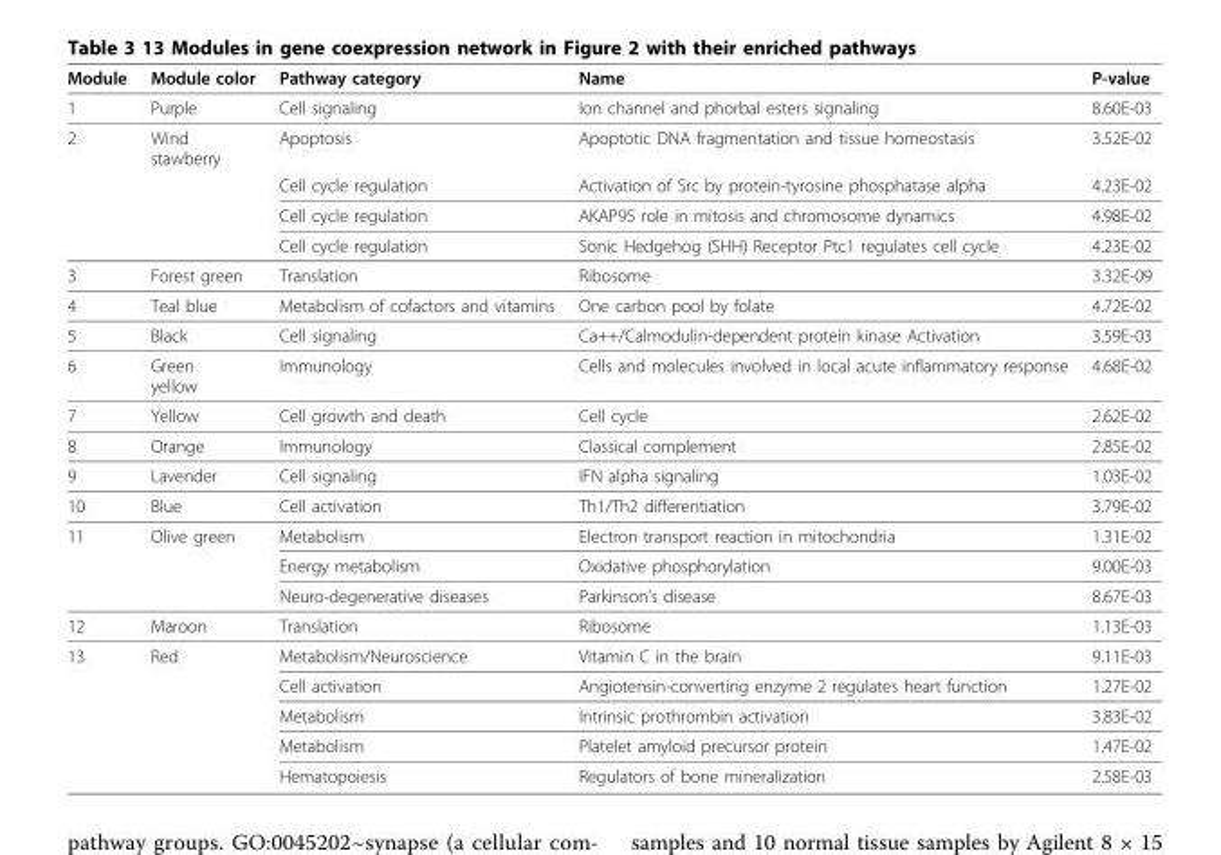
<table><thead><tr><td>Module</td><td>Module color</td><td>Pathway category</td><td>Name</td><td>P-value</td></tr></thead><tbody><tr><td>1</td><td>Purple</td><td>Cell signaling</td><td>Ion channel and phorbal esters signaling</td><td>8.60E-03</td></tr><tr><td rowspan="4">2</td><td>Wind stawberry</td><td>Apoptosis</td><td>Apoptotic DNA fragmentation and tissue homeostasis</td><td>3.52E-02</td></tr><tr><td></td><td>Cell cycle regulation</td><td>Activation of Src by protein-tyrosine phosphatase alpha</td><td>4.23E-02</td></tr><tr><td></td><td>Cell cycle regulation</td><td>AKAP95 role in mitosis and chromosome dynamics</td><td>4.98E-02</td></tr><tr><td></td><td>Cell cycle regulation</td><td>Sonic Hedgehog (SHH) Receptor Ptc1 regulates cell cycle</td><td>4.23E-02</td></tr><tr><td>3</td><td>Forest green</td><td>Translation</td><td>Ribosome</td><td>3.32E-09</td></tr><tr><td>4</td><td>Teal blue</td><td>Metabolism of cofactors and vitamins</td><td>One carbon pool by folate</td><td>4.72E-02</td></tr><tr><td>5</td><td>Black</td><td>Cell signaling</td><td>Ca++/Calmodulin-dependent protein kinase Activation</td><td>3.59E-03</td></tr><tr><td>6</td><td>Green yellow</td><td>Immunology</td><td>Cells and molecules involved in local acute inflammatory response</td><td>4.68E-02</td></tr><tr><td>7</td><td>Yellow</td><td>Cell growth and death</td><td>Cell cycle</td><td>2.62E-02</td></tr><tr><td>8</td><td>Orange</td><td>Immunology</td><td>Classical complement</td><td>2.85E-02</td></tr><tr><td>9</td><td>Lavender</td><td>Cell signaling</td><td>IFN alpha signaling</td><td>1.03E-02</td></tr><tr><td>10</td><td>Blue</td><td>Cell activation</td><td>Th1/Th2 differentiation</td><td>3.79E-02</td></tr><tr><td rowspan="3">11</td><td>Olive green</td><td>Metabolism</td><td>Electron transport reaction in mitochondria</td><td>1.31E-02</td></tr><tr><td></td><td>Energy metabolism</td><td>Oxidative phosphorylation</td><td>9.00E-03</td></tr><tr><td></td><td>Neuro-degenerative diseases</td><td>Parkinson’s disease</td><td>8.67E-03</td></tr><tr><td>12</td><td>Maroon</td><td>Translation</td><td>Ribosome</td><td>1.13E-03</td></tr><tr><td rowspan="5">13</td><td>Red</td><td>Metabolism/Neuroscience</td><td>Vitamin C in the brain</td><td>9.11E-03</td></tr><tr><td></td><td>Cell activation</td><td>Angiotensin-converting enzyme 2 regulates heart function</td><td>1.27E-02</td></tr><tr><td></td><td>Metabolism</td><td>Intrinsic prothrombin activation</td><td>3.83E-02</td></tr><tr><td></td><td>Metabolism</td><td>Platelet amyloid precursor protein</td><td>1.47E-02</td></tr><tr><td></td><td>Hematopoiesis</td><td>Regulators of bone mineralization</td><td>2.58E-03</td></tr></tbody></table>